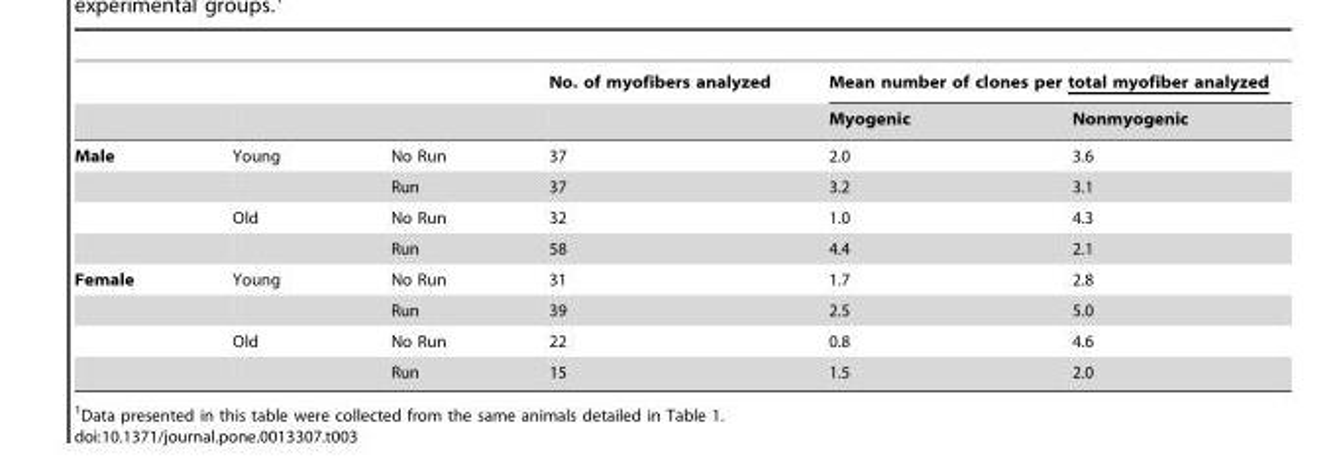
<table><thead><tr><td rowspan="2"></td><td rowspan="2"></td><td rowspan="2"></td><td rowspan="2">No. of myofibers analyzed</td><td colspan="2">Mean number of clones per total myofiber analyzed</td></tr><tr><td>Myogenic</td><td>Nonmyogenic</td></tr></thead><tbody><tr><td rowspan="4">Male</td><td>Young</td><td>No Run</td><td>37</td><td>2.0</td><td>3.6</td></tr><tr><td></td><td>Run</td><td>37</td><td>3.2</td><td>3.1</td></tr><tr><td>Old</td><td>No Run</td><td>32</td><td>1.0</td><td>4.3</td></tr><tr><td></td><td>Run</td><td>58</td><td>4.4</td><td>2.1</td></tr><tr><td rowspan="4">Female</td><td>Young</td><td>No Run</td><td>31</td><td>1.7</td><td>2.8</td></tr><tr><td></td><td>Run</td><td>39</td><td>2.5</td><td>5.0</td></tr><tr><td>Old</td><td>No Run</td><td>22</td><td>0.8</td><td>4.6</td></tr><tr><td></td><td>Run</td><td>15</td><td>1.5</td><td>2.0</td></tr></tbody></table>